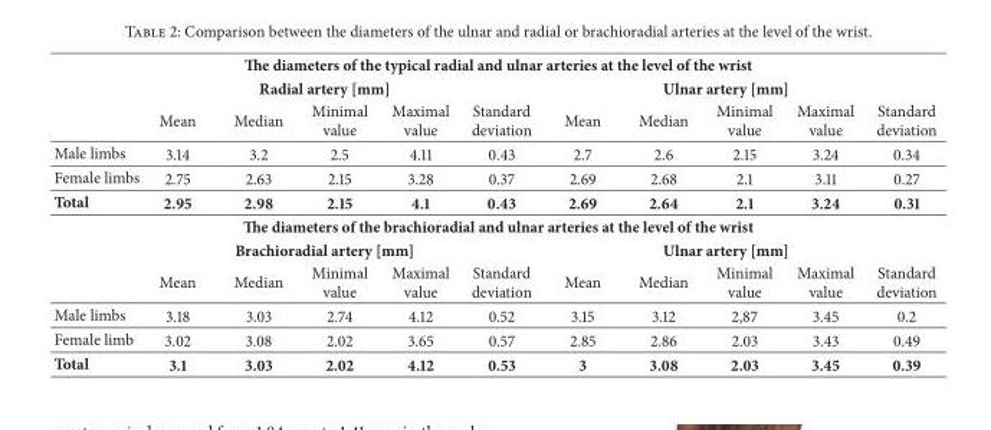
<table><thead><tr><td colspan="11">The diameters of the typical radial and ulnar arteries at the level of the wrist</td></tr><tr><td rowspan="2"></td><td colspan="5">Radial artery [mm]</td><td colspan="5">Ulnar artery [mm]</td></tr><tr><td>Mean</td><td>Median</td><td>Minimal value</td><td>Maximal value</td><td>Standard deviation</td><td>Mean</td><td>Median</td><td>Minimal value</td><td>Maximal value</td><td>Standard deviation</td></tr></thead><tbody><tr><td>Male limbs</td><td>3.14</td><td>3.2</td><td>2.5</td><td>4.11</td><td>0.43</td><td>2.7</td><td>2.6</td><td>2.15</td><td>3.24</td><td>0.34</td></tr><tr><td>Female limbs</td><td>2.75</td><td>2.63</td><td>2.15</td><td>3.28</td><td>0.37</td><td>2.69</td><td>2.68</td><td>2.1</td><td>3.11</td><td>0.27</td></tr><tr><td>Total</td><td>2.95</td><td>2.98</td><td>2.15</td><td>4.1</td><td>0.43</td><td>2.69</td><td>2.64</td><td>2.1</td><td>3.24</td><td>0.31</td></tr><tr><td colspan="11">The diameters of the brachioradial and ulnar arteries at the level of the wrist</td></tr><tr><td></td><td colspan="5">Brachioradial artery [mm]</td><td colspan="5">Ulnar artery [mm]</td></tr><tr><td></td><td>Mean</td><td>Median</td><td>Minimal value</td><td>Maximal value</td><td>Standard deviation</td><td>Mean</td><td>Median</td><td>Minimal value</td><td>Maximal value</td><td>Standard deviation</td></tr><tr><td>Male limbs</td><td>3.18</td><td>3.03</td><td>2.74</td><td>4.12</td><td>0.52</td><td>3.15</td><td>3.12</td><td>2,87</td><td>3.45</td><td>0.2</td></tr><tr><td>Female limb</td><td>3.02</td><td>3.08</td><td>2.02</td><td>3.65</td><td>0.57</td><td>2.85</td><td>2.86</td><td>2.03</td><td>3.43</td><td>0.49</td></tr><tr><td>Total</td><td>3.1</td><td>3.03</td><td>2.02</td><td>4.12</td><td>0.53</td><td>3</td><td>3.08</td><td>2.03</td><td>3.45</td><td>0.39</td></tr></tbody></table>